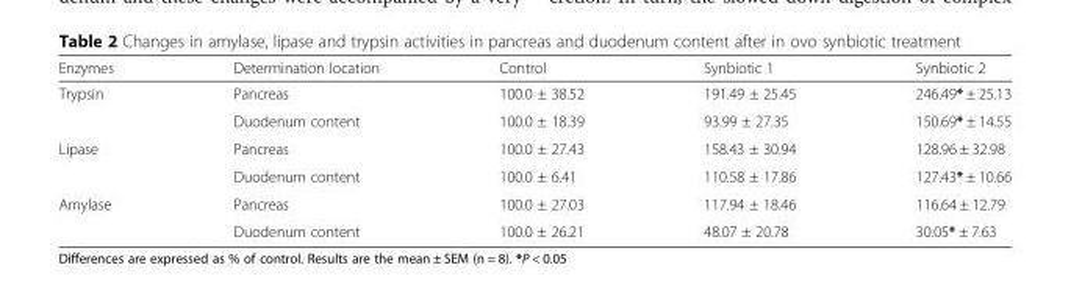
<table><thead><tr><td>Enzymes</td><td>Determination location</td><td>Control</td><td>Synbiotic 1</td><td>Synbiotic 2</td></tr></thead><tbody><tr><td rowspan="2">Trypsin</td><td>Pancreas</td><td>100.0 ± 38.52</td><td>191.49 ± 25.45</td><td>246.49* ± 25.13</td></tr><tr><td>Duodenum content</td><td>100.0 ± 18.39</td><td>93.99 ± 27.35</td><td>150.69* ± 14.55</td></tr><tr><td rowspan="2">Lipase</td><td>Pancreas</td><td>100.0 ± 27.43</td><td>158.43 ± 30.94</td><td>128.96 ± 32.98</td></tr><tr><td>Duodenum content</td><td>100.0 ± 6.41</td><td>110.58 ± 17.86</td><td>127.43* ± 10.66</td></tr><tr><td rowspan="2">Amylase</td><td>Pancreas</td><td>100.0 ± 27.03</td><td>117.94 ± 18.46</td><td>116.64 ± 12.79</td></tr><tr><td>Duodenum content</td><td>100.0 ± 26.21</td><td>48.07 ± 20.78</td><td>30.05* ± 7.63</td></tr></tbody></table>